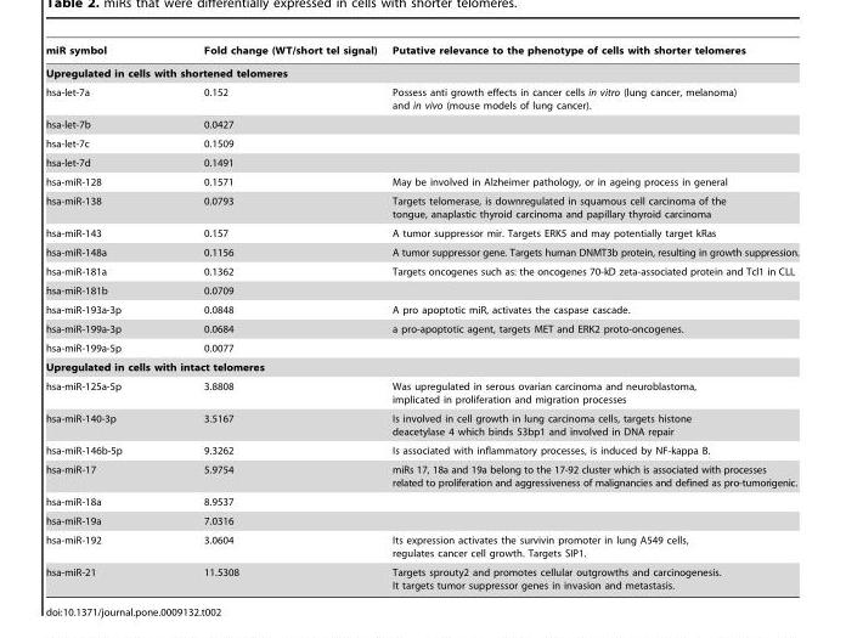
<table><thead><tr><td>miR symbol</td><td>Fold change (WT/short tel signal)</td><td>Putative relevance to the phenotype of cells with shorter telomeres</td></tr></thead><tbody><tr><td colspan="3">Upregulated in cells with shortened telomeres</td></tr><tr><td>hsa-let-7a</td><td>0.152</td><td>Possess anti growth effects in cancer cells in vitro (lung cancer, melanoma) and in vivo (mouse models of lung cancer).</td></tr><tr><td>hsa-let-7b</td><td>0.0427</td><td></td></tr><tr><td>hsa-let-7c</td><td>0.1509</td><td></td></tr><tr><td>hsa-let-7d</td><td>0.1491</td><td></td></tr><tr><td>hsa-miR-128</td><td>0.1571</td><td>May be involved in Alzheimer pathology, or in ageing process in general</td></tr><tr><td>hsa-miR-138</td><td>0.0793</td><td>Targets telomerase, is downregulated in squamous cell carcinoma of the tongue, anaplastic thyroid carcinoma and papillary thyroid carcinoma</td></tr><tr><td>hsa-miR-143</td><td>0.157</td><td>A tumor suppressor mir. Targets ERK5 and may potentially target kRas</td></tr><tr><td>hsa-miR-148a</td><td>0.1156</td><td>A tumor suppressor gene. Targets human DNMT3b protein, resulting in growth suppression.</td></tr><tr><td>hsa-miR-181a</td><td>0.1362</td><td>Targets oncogenes such as: the oncogenes 70-kD zeta-associated protein and Tcl1 in CLL</td></tr><tr><td>hsa-miR-181b</td><td>0.0709</td><td></td></tr><tr><td>hsa-miR-193a-3p</td><td>0.0848</td><td>A pro apoptotic miR, activates the caspase cascade.</td></tr><tr><td>hsa-miR-199a-3p</td><td>0.0684</td><td>a pro-apoptotic agent, targets MET and ERK2 proto-oncogenes.</td></tr><tr><td>hsa-miR-199a-5p</td><td>0.0077</td><td></td></tr><tr><td colspan="3">Upregulated in cells with intact telomeres</td></tr><tr><td>hsa-miR-125a-5p</td><td>3.8808</td><td>Was upregulated in serous ovarian carcinoma and neuroblastoma, implicated in proliferation and migration processes</td></tr><tr><td>hsa-miR-140-3p</td><td>3.5167</td><td>Is involved in cell growth in lung carcinoma cells, targets histone deacetylase 4 which binds 53bp1 and involved in DNA repair</td></tr><tr><td>hsa-miR-146b-5p</td><td>9.3262</td><td>Is associated with inflammatory processes, is induced by NF-kappa B.</td></tr><tr><td>hsa-miR-17</td><td>5.9754</td><td>miRs 17, 18a and 19a belong to the 17-92 cluster which is associated with processes related to proliferation and aggressiveness of malignancies and defined as pro-tumorigenic.</td></tr><tr><td>hsa-miR-18a</td><td>8.9537</td><td></td></tr><tr><td>hsa-miR-19a</td><td>7.0316</td><td></td></tr><tr><td>hsa-miR-192</td><td>3.0604</td><td>Its expression activates the survivin promoter in lung A549 cells, regulates cancer cell growth. Targets SIP1.</td></tr><tr><td>hsa-miR-21</td><td>11.5308</td><td>Targets sprouty2 and promotes cellular outgrowths and carcinogenesis. It targets tumor suppressor genes in invasion and metastasis.</td></tr></tbody></table>